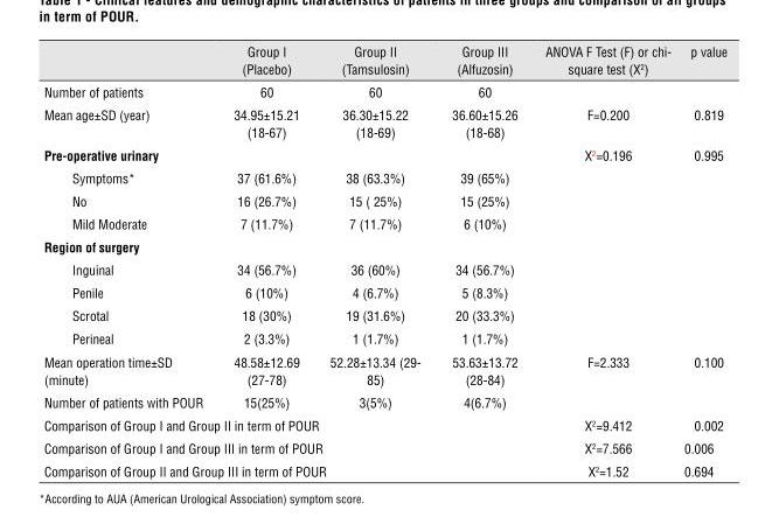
<table><thead><tr><td></td><td>Group I (Placebo)</td><td>Group II (Tamsulosin)</td><td>Group III (Alfuzosin)</td><td>ANOVA F Test (F) or chi- square test (X<sup>2</sup>)</td><td>p value</td></tr></thead><tbody><tr><td>Number of patients</td><td>60</td><td>60</td><td>60</td><td></td><td></td></tr><tr><td>Mean age±SD (year)</td><td>34.95±15.21 (18-67)</td><td>36.30±15.22 (18-69)</td><td>36.60±15.26 (18-68)</td><td>F=0.200</td><td>0.819</td></tr><tr><td>pre-operative urinary</td><td></td><td></td><td></td><td>X<sup>2</sup>=0.196</td><td>0.995</td></tr><tr><td>Symptoms*</td><td>37 (61.6%)</td><td>38 (63.3%)</td><td>39 (65%)</td><td></td><td></td></tr><tr><td>No</td><td>16 (26.7%)</td><td>15 ( 25%)</td><td>15 (25%)</td><td></td><td></td></tr><tr><td>Mild Moderate</td><td>7 (11.7%)</td><td>7 (11.7%)</td><td>6 (10%)</td><td></td><td></td></tr><tr><td colspan="6">Region of surgery</td></tr><tr><td>Inguinal</td><td>34 (56.7%)</td><td>36 (60%)</td><td>34 (56.7%)</td><td></td><td></td></tr><tr><td>Penile</td><td>6 (10%)</td><td>4 (6.7%)</td><td>5 (8.3%)</td><td></td><td></td></tr><tr><td>Scrotal</td><td>18 (30%)</td><td>19 (31.6%)</td><td>20 (33.3%)</td><td></td><td></td></tr><tr><td>Perineal</td><td>2 (3.3%)</td><td>1 (1.7%)</td><td>1 (1.7%)</td><td></td><td></td></tr><tr><td>Mean operation time±SD (minute)</td><td>48.58±12.69 (27-78)</td><td>52.28±13.34 (29- 85)</td><td>53.63±13.72 (28-84)</td><td>F=2.333</td><td>0.100</td></tr><tr><td>Number of patients with POUR</td><td>15(25%)</td><td>3(5%)</td><td>4(6.7%)</td><td></td><td></td></tr><tr><td colspan="4">Comparison of Group I and Group II in term of POUR</td><td>X<sup>2</sup>=9.412</td><td>0.002</td></tr><tr><td colspan="4">Comparison of Group I and Group III in term of POUR</td><td>X<sup>2</sup>=7.566</td><td>0.006</td></tr><tr><td colspan="4">Comparison of Group II and Group III in term of POUR</td><td>X<sup>2</sup>=1.52</td><td>0.694</td></tr></tbody></table>